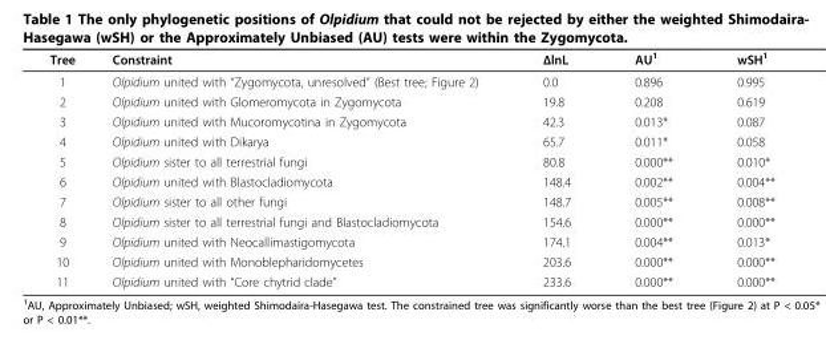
<table><thead><tr><td>Tree</td><td>Constraint</td><td>ΔlnL</td><td>AU<sup>1</sup></td><td>wSH<sup>1</sup></td></tr></thead><tbody><tr><td>1</td><td>Olpidium united with “Zygomycota, unresolved” (Best tree; Figure 2)</td><td>0.0</td><td>0.896</td><td>0.995</td></tr><tr><td>2</td><td>Olpidium united with Glomeromycota in Zygomycota</td><td>19.8</td><td>0.208</td><td>0.619</td></tr><tr><td>3</td><td>Olpidium united with Mucoromycotina in Zygomycota</td><td>42.3</td><td>0.013*</td><td>0.087</td></tr><tr><td>4</td><td>Olpidium united with Dikarya</td><td>65.7</td><td>0.011*</td><td>0.058</td></tr><tr><td>5</td><td>Olpidium sister to all terrestrial fungi</td><td>80.8</td><td>0.000**</td><td>0.010*</td></tr><tr><td>6</td><td>Olpidium united with Blastocladiomycota</td><td>148.4</td><td>0.002**</td><td>0.004**</td></tr><tr><td>7</td><td>Olpidium sister to all other fungi</td><td>148.7</td><td>0.005**</td><td>0.008**</td></tr><tr><td>8</td><td>Olpidium sister to all terrestrial fungi and Blastocladiomycota</td><td>154.6</td><td>0.000**</td><td>0.000**</td></tr><tr><td>9</td><td>Olpidium united with Neocallimastigomycota</td><td>174.1</td><td>0.004**</td><td>0.013*</td></tr><tr><td>10</td><td>Olpidium united with Monoblepharidomycetes</td><td>203.6</td><td>0.000**</td><td>0.000**</td></tr><tr><td>11</td><td>Olpidium united with “Core chytrid clade”</td><td>233.6</td><td>0.000**</td><td>0.000**</td></tr></tbody></table>